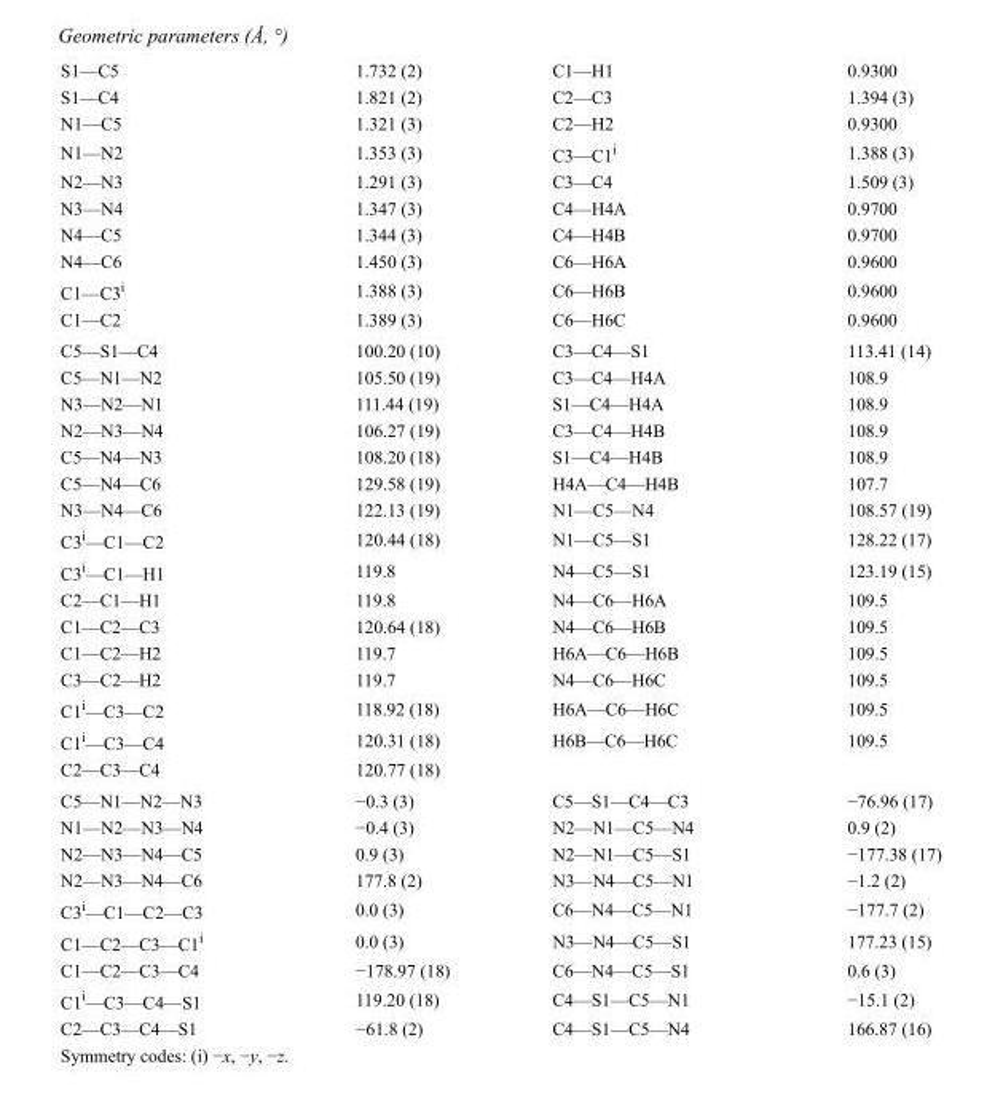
<table><tbody><tr><td>S1—C5</td><td>1.732 (2)</td><td>C1—H1</td><td>0.9300</td></tr><tr><td>S1—C4</td><td>1.821 (2)</td><td>C2—C3</td><td>1.394 (3)</td></tr><tr><td>N1—C5</td><td>1.321 (3)</td><td>C2—H2</td><td>0.9300</td></tr><tr><td>N1—N2</td><td>1.353 (3)</td><td>C3—C1<sup>i</sup></td><td>1.388 (3)</td></tr><tr><td>N2—N3</td><td>1.291 (3)</td><td>C3—C4</td><td>1.509 (3)</td></tr><tr><td>N3—N4</td><td>1.347 (3)</td><td>C4—H4A</td><td>0.9700</td></tr><tr><td>N4—C5</td><td>1.344 (3)</td><td>C4—H4B</td><td>0.9700</td></tr><tr><td>N4—C6</td><td>1.450 (3)</td><td>C6—H6A</td><td>0.9600</td></tr><tr><td>C1—C3<sup>i</sup></td><td>1.388 (3)</td><td>C6—H6B</td><td>0.9600</td></tr><tr><td>C1—C2</td><td>1.389 (3)</td><td>C6—H6C</td><td>0.9600</td></tr><tr><td>C5—S1—C4</td><td>100.20 (10)</td><td>C3—C4—S1</td><td>113.41 (14)</td></tr><tr><td>C5—N1—N2</td><td>105.50 (19)</td><td>C3—C4—H4A</td><td>108.9</td></tr><tr><td>N3—N2—N1</td><td>111.44 (19)</td><td>S1—C4—H4A</td><td>108.9</td></tr><tr><td>N2—N3—N4</td><td>106.27 (19)</td><td>C3—C4—H4B</td><td>108.9</td></tr><tr><td>C5—N4—N3</td><td>108.20 (18)</td><td>S1—C4—H4B</td><td>108.9</td></tr><tr><td>C5—N4—C6</td><td>129.58 (19)</td><td>H4A—C4—H4B</td><td>107.7</td></tr><tr><td>N3—N4—C6</td><td>122.13 (19)</td><td>N1—C5—N4</td><td>108.57 (19)</td></tr><tr><td>C3<sup>i</sup>—C1—C2</td><td>120.44 (18)</td><td>N1—C5—S1</td><td>128.22 (17)</td></tr><tr><td>C3<sup>i</sup>—C1—H1</td><td>119.8</td><td>N4—C5—S1</td><td>123.19 (15)</td></tr><tr><td>C2—C1—H1</td><td>119.8</td><td>N4—C6—H6A</td><td>109.5</td></tr><tr><td>C1—C2—C3</td><td>120.64 (18)</td><td>N4—C6—H6B</td><td>109.5</td></tr><tr><td>C1—C2—H2</td><td>119.7</td><td>H6A—C6—H6B</td><td>109.5</td></tr><tr><td>C3—C2—H2</td><td>119.7</td><td>N4—C6—H6C</td><td>109.5</td></tr><tr><td>C1<sup>i</sup>—C3—C2</td><td>118.92 (18)</td><td>H6A—C6—H6C</td><td>109.5</td></tr><tr><td>C1<sup>i</sup>—C3—C4</td><td>120.31 (18)</td><td>H6B—C6—H6C</td><td>109.5</td></tr><tr><td>C2—C3—C4</td><td>120.77 (18)</td><td></td><td></td></tr><tr><td>C5—N1—N2—N3</td><td>−0.3 (3)</td><td>C5—S1—C4—C3</td><td>−76.96 (17)</td></tr><tr><td>N1—N2—N3—N4</td><td>−0.4 (3)</td><td>N2—N1—C5—N4</td><td>0.9 (2)</td></tr><tr><td>N2—N3—N4—C5</td><td>0.9 (3)</td><td>N2—N1—C5—S1</td><td>−177.38 (17)</td></tr><tr><td>N2—N3—N4—C6</td><td>177.8 (2)</td><td>N3—N4—C5—N1</td><td>−1.2 (2)</td></tr><tr><td>C3<sup>i</sup>—C1—C2—C3</td><td>0.0 (3)</td><td>C6—N4—C5—N1</td><td>−177.7 (2)</td></tr><tr><td>C1—C2—C3—C1<sup>i</sup></td><td>0.0 (3)</td><td>N3—N4—C5—S1</td><td>177.23 (15)</td></tr><tr><td>C1—C2—C3—C4</td><td>−178.97 (18)</td><td>C6—N4—C5—S1</td><td>0.6 (3)</td></tr><tr><td>C1<sup>i</sup>—C3—C4—S1</td><td>119.20 (18)</td><td>C4—S1—C5—N1</td><td>−15.1 (2)</td></tr><tr><td>C2—C3—C4—S1</td><td>−61.8 (2)</td><td>C4—S1—C5—N4</td><td>166.87 (16)</td></tr></tbody></table>